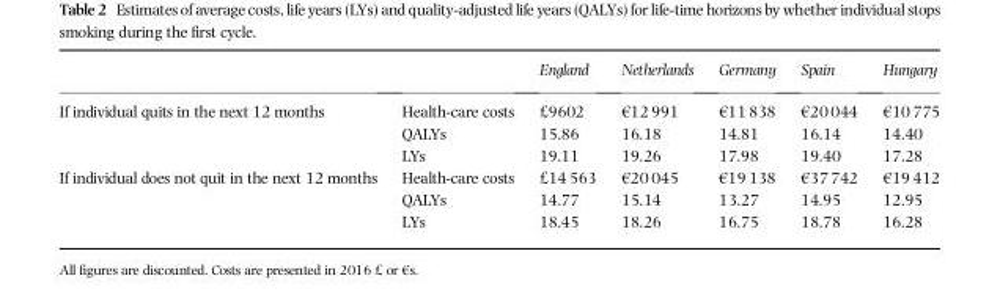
<table><thead><tr><td></td><td></td><td>England</td><td>Netherlands</td><td>Germany</td><td>Spain</td><td>Hungary</td></tr></thead><tbody><tr><td rowspan="3">If individual quits in the next 12 months</td><td>Health-care costs</td><td>£9602</td><td>€12 991</td><td>€11 838</td><td>€20 044</td><td>€10 775</td></tr><tr><td>QALYs</td><td>15.86</td><td>16.18</td><td>14.81</td><td>16.14</td><td>14.40</td></tr><tr><td>LYs</td><td>19.11</td><td>19.26</td><td>17.98</td><td>19.40</td><td>17.28</td></tr><tr><td rowspan="3">If individual does not quit in the next 12 months</td><td>Health-care costs</td><td>£14 563</td><td>€20 045</td><td>€19 138</td><td>€37 742</td><td>€19 412</td></tr><tr><td>QALYs</td><td>14.77</td><td>15.14</td><td>13.27</td><td>14.95</td><td>12.95</td></tr><tr><td>LYs</td><td>18.45</td><td>18.26</td><td>16.75</td><td>18.78</td><td>16.28</td></tr></tbody></table>